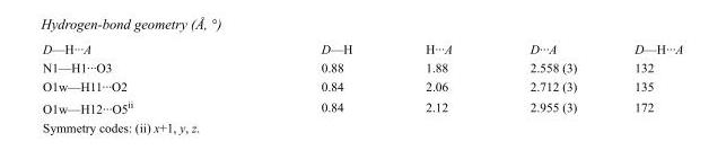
<table><tbody><tr><td>D—H···A</td><td>D—H</td><td>H···A</td><td>D···A</td><td>D—H···A</td></tr><tr><td>N1—H1···O3</td><td>0.88</td><td>1.88</td><td>2.558 (3)</td><td>132</td></tr><tr><td>O1w—H11···O2</td><td>0.84</td><td>2.06</td><td>2.712 (3)</td><td>135</td></tr><tr><td>O1w—H12···O5<sup>ii</sup></td><td>0.84</td><td>2.12</td><td>2.955 (3)</td><td>172</td></tr></tbody></table>